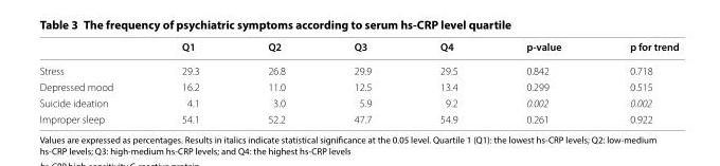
<table><thead><tr><td></td><td>Q1</td><td>Q2</td><td>Q3</td><td>Q4</td><td>p‑value</td><td>p for trend</td></tr></thead><tbody><tr><td>Stress</td><td>29.3</td><td>26.8</td><td>29.9</td><td>29.5</td><td>0.842</td><td>0.718</td></tr><tr><td>Depressed mood</td><td>16.2</td><td>11.0</td><td>12.5</td><td>13.4</td><td>0.299</td><td>0.515</td></tr><tr><td>Suicide ideation</td><td>4.1</td><td>3.0</td><td>5.9</td><td>9.2</td><td>0.002</td><td>0.002</td></tr><tr><td>Improper sleep</td><td>54.1</td><td>52.2</td><td>47.7</td><td>54.9</td><td>0.261</td><td>0.922</td></tr></tbody></table>